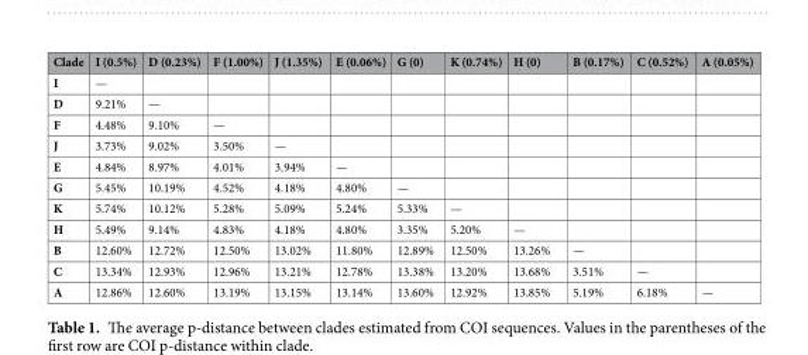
<table><thead><tr><td>Clade</td><td>I (0.5%)</td><td>D (0.23%)</td><td>F (1.00%)</td><td>J (1.35%)</td><td>E (0.06%)</td><td>G (0)</td><td>K (0.74%)</td><td>H (0)</td><td>B (0.17%)</td><td>C (0.52%)</td><td>A (0.05%)</td></tr></thead><tbody><tr><td>I</td><td>—</td><td></td><td></td><td></td><td></td><td></td><td></td><td></td><td></td><td></td><td></td></tr><tr><td>D</td><td>9.21%</td><td>—</td><td></td><td></td><td></td><td></td><td></td><td></td><td></td><td></td><td></td></tr><tr><td>F</td><td>4.48%</td><td>9.10%</td><td>—</td><td></td><td></td><td></td><td></td><td></td><td></td><td></td><td></td></tr><tr><td>J</td><td>3.73%</td><td>9.02%</td><td>3.50%</td><td>—</td><td></td><td></td><td></td><td></td><td></td><td></td><td></td></tr><tr><td>E</td><td>4.84%</td><td>8.97%</td><td>4.01%</td><td>3.94%</td><td>—</td><td></td><td></td><td></td><td></td><td></td><td></td></tr><tr><td>G</td><td>5.45%</td><td>10.19%</td><td>4.52%</td><td>4.18%</td><td>4.80%</td><td>—</td><td></td><td></td><td></td><td></td><td></td></tr><tr><td>K</td><td>5.74%</td><td>10.12%</td><td>5.28%</td><td>5.09%</td><td>5.24%</td><td>5.33%</td><td>—</td><td></td><td></td><td></td><td></td></tr><tr><td>H</td><td>5.49%</td><td>9.14%</td><td>4.83%</td><td>4.18%</td><td>4.80%</td><td>3.35%</td><td>5.20%</td><td>—</td><td></td><td></td><td></td></tr><tr><td>B</td><td>12.60%</td><td>12.72%</td><td>12.50%</td><td>13.02%</td><td>11.80%</td><td>12.89%</td><td>12.50%</td><td>13.26%</td><td>—</td><td></td><td></td></tr><tr><td>C</td><td>13.34%</td><td>12.93%</td><td>12.96%</td><td>13.21%</td><td>12.78%</td><td>13.38%</td><td>13.20%</td><td>13.68%</td><td>3.51%</td><td>—</td><td></td></tr><tr><td>A</td><td>12.86%</td><td>12.60%</td><td>13.19%</td><td>13.15%</td><td>13.14%</td><td>13.60%</td><td>12.92%</td><td>13.85%</td><td>5.19%</td><td>6.18%</td><td>—</td></tr></tbody></table>